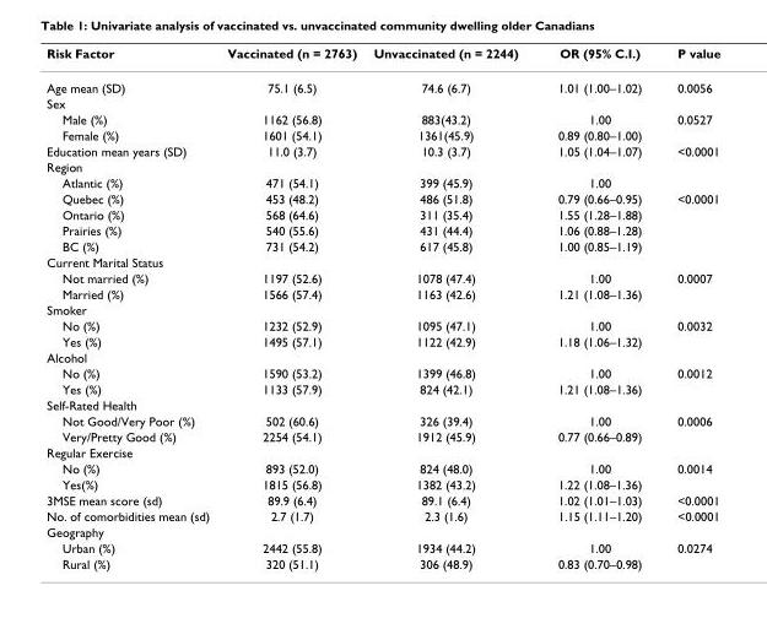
<table><thead><tr><td>Risk Factor</td><td>Vaccinated (n = 2763)</td><td>Unvaccinated (n = 2244)</td><td>OR (95% C.I.)</td><td>P value</td></tr></thead><tbody><tr><td>Age mean (SD)</td><td>75.1 (6.5)</td><td>74.6 (6.7)</td><td>1.01 (1.00–1.02)</td><td>0.0056</td></tr><tr><td colspan="5">Sex</td></tr><tr><td>Male (%)</td><td>1162 (56.8)</td><td>883(43.2)</td><td>1.00</td><td>0.0527</td></tr><tr><td>Female (%)</td><td>1601 (54.1)</td><td>1361(45.9)</td><td>0.89 (0.80–1.00)</td><td></td></tr><tr><td>Education mean years (SD)</td><td>11.0 (3.7)</td><td>10.3 (3.7)</td><td>1.05 (1.04–1.07)</td><td>&lt;0.0001</td></tr><tr><td colspan="5">Region</td></tr><tr><td>Atlantic (%)</td><td>471 (54.1)</td><td>399 (45.9)</td><td>1.00</td><td></td></tr><tr><td>Quebec (%)</td><td>453 (48.2)</td><td>486 (51.8)</td><td>0.79 (0.66–0.95)</td><td>&lt;0.0001</td></tr><tr><td>Ontario (%)</td><td>568 (64.6)</td><td>311 (35.4)</td><td>1.55 (1.28–1.88)</td><td></td></tr><tr><td>Prairies (%)</td><td>540 (55.6)</td><td>431 (44.4)</td><td>1.06 (0.88–1.28)</td><td></td></tr><tr><td>BC (%)</td><td>731 (54.2)</td><td>617 (45.8)</td><td>1.00 (0.85–1.19)</td><td></td></tr><tr><td colspan="5">Current Marital Status</td></tr><tr><td>Not married (%)</td><td>1197 (52.6)</td><td>1078 (47.4)</td><td>1.00</td><td>0.0007</td></tr><tr><td>Married (%)</td><td>1566 (57.4)</td><td>1163 (42.6)</td><td>1.21 (1.08–1.36)</td><td></td></tr><tr><td colspan="5">Smoker</td></tr><tr><td>No (%)</td><td>1232 (52.9)</td><td>1095 (47.1)</td><td>1.00</td><td>0.0032</td></tr><tr><td>Yes (%)</td><td>1495 (57.1)</td><td>1122 (42.9)</td><td>1.18 (1.06–1.32)</td><td></td></tr><tr><td colspan="5">Alcohol</td></tr><tr><td>No (%)</td><td>1590 (53.2)</td><td>1399 (46.8)</td><td>1.00</td><td>0.0012</td></tr><tr><td>Yes (%)</td><td>1133 (57.9)</td><td>824 (42.1)</td><td>1.21 (1.08–1.36)</td><td></td></tr><tr><td colspan="5">Self-Rated Health</td></tr><tr><td>Not Good/Very Poor (%)</td><td>502 (60.6)</td><td>326 (39.4)</td><td>1.00</td><td>0.0006</td></tr><tr><td>Very/Pretty Good (%)</td><td>2254 (54.1)</td><td>1912 (45.9)</td><td>0.77 (0.66–0.89)</td><td></td></tr><tr><td colspan="5">Regular Exercise</td></tr><tr><td>No (%)</td><td>893 (52.0)</td><td>824 (48.0)</td><td>1.00</td><td>0.0014</td></tr><tr><td>Yes(%)</td><td>1815 (56.8)</td><td>1382 (43.2)</td><td>1.22 (1.08–1.36)</td><td></td></tr><tr><td>3MSE mean score (sd)</td><td>89.9 (6.4)</td><td>89.1 (6.4)</td><td>1.02 (1.01–1.03)</td><td>&lt;0.0001</td></tr><tr><td>No. of comorbidities mean (sd)</td><td>2.7 (1.7)</td><td>2.3 (1.6)</td><td>1.15 (1.11–1.20)</td><td>&lt;0.0001</td></tr><tr><td colspan="5">Geography</td></tr><tr><td>Urban (%)</td><td>2442 (55.8)</td><td>1934 (44.2)</td><td>1.00</td><td>0.0274</td></tr><tr><td>Rural (%)</td><td>320 (51.1)</td><td>306 (48.9)</td><td>0.83 (0.70–0.98)</td><td></td></tr></tbody></table>